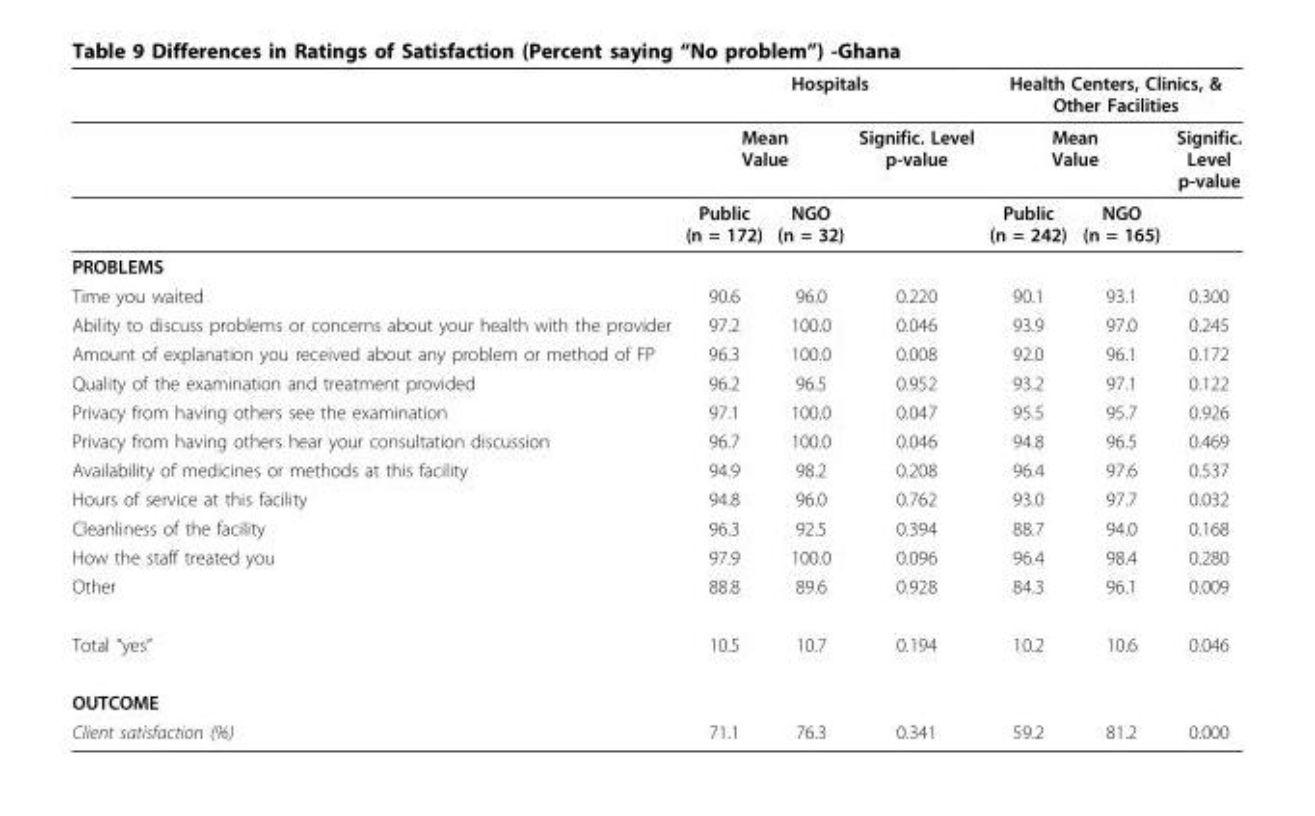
<table><thead><tr><td rowspan="3"></td><td colspan="3">Hospitals</td><td colspan="3">Health Centers, Clinics, &amp; Other Facilities</td></tr><tr><td colspan="2">Mean Value</td><td rowspan="2">Signific. Level p-value</td><td colspan="2">Mean Value</td><td rowspan="2">Signific. Level p-value</td></tr><tr><td>Public (n = 172)</td><td>NGO (n = 32)</td><td>Public (n = 242)</td><td>NGO (n = 165)</td></tr></thead><tbody><tr><td colspan="7">PROBLEMS</td></tr><tr><td>Time you waited</td><td>90.6</td><td>96.0</td><td>0.220</td><td>90.1</td><td>93.1</td><td>0.300</td></tr><tr><td>Ability to discuss problems or concerns about your health with the provider</td><td>97.2</td><td>100.0</td><td>0.046</td><td>93.9</td><td>97.0</td><td>0.245</td></tr><tr><td>Amount of explanation you received about any problem or method of FP</td><td>96.3</td><td>100.0</td><td>0.008</td><td>92.0</td><td>96.1</td><td>0.172</td></tr><tr><td>Quality of the examination and treatment provided</td><td>96.2</td><td>96.5</td><td>0.952</td><td>93.2</td><td>97.1</td><td>0.122</td></tr><tr><td>Privacy from having others see the examination</td><td>97.1</td><td>100.0</td><td>0.047</td><td>95.5</td><td>95.7</td><td>0.926</td></tr><tr><td>Privacy from having others hear your consultation discussion</td><td>96.7</td><td>100.0</td><td>0.046</td><td>94.8</td><td>96.5</td><td>0.469</td></tr><tr><td>Availability of medicines or methods at this facility</td><td>94.9</td><td>98.2</td><td>0.208</td><td>96.4</td><td>97.6</td><td>0.537</td></tr><tr><td>Hours of service at this facility</td><td>94.8</td><td>96.0</td><td>0.762</td><td>93.0</td><td>97.7</td><td>0.032</td></tr><tr><td>Cleanliness of the facility</td><td>96.3</td><td>92.5</td><td>0.394</td><td>88.7</td><td>94.0</td><td>0.168</td></tr><tr><td>How the staff treated you</td><td>97.9</td><td>100.0</td><td>0.096</td><td>96.4</td><td>98.4</td><td>0.280</td></tr><tr><td>Other</td><td>88.8</td><td>89.6</td><td>0.928</td><td>84.3</td><td>96.1</td><td>0.009</td></tr><tr><td>Total “yes”</td><td>10.5</td><td>10.7</td><td>0.194</td><td>10.2</td><td>10.6</td><td>0.046</td></tr><tr><td colspan="7">OUTCOME</td></tr><tr><td>Client satisfaction (%)</td><td>71.1</td><td>76.3</td><td>0.341</td><td>59.2</td><td>81.2</td><td>0.000</td></tr></tbody></table>